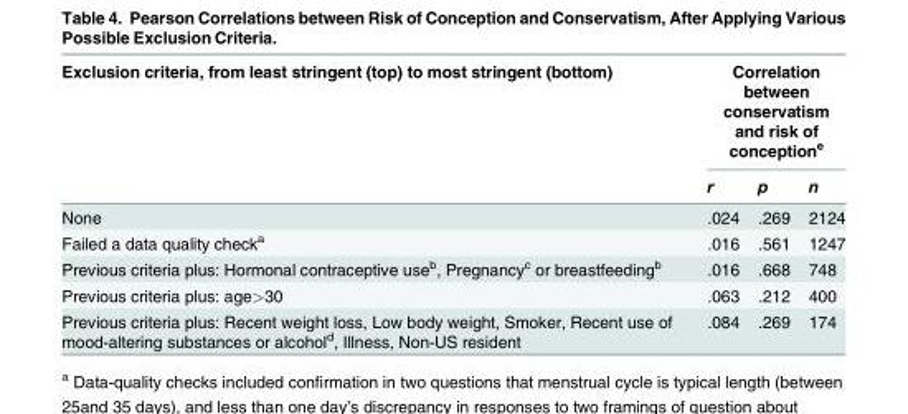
<table><thead><tr><td rowspan="2">Exclusion criteria, from least stringent (top) to most stringent (bottom)</td><td colspan="3">Correlation between conservatism and risk of conception<sup>e</sup></td></tr><tr><td>r</td><td>p</td><td>n</td></tr></thead><tbody><tr><td>None</td><td>.024</td><td>.269</td><td>2124</td></tr><tr><td>Failed a data quality check<sup>a</sup></td><td>.016</td><td>.561</td><td>1247</td></tr><tr><td>Previous criteria plus: Hormonal contraceptive use<sup>b</sup>, Pregnancy<sup>c</sup> or breastfeeding<sup>b</sup></td><td>.016</td><td>.668</td><td>748</td></tr><tr><td>Previous criteria plus: age&gt;30</td><td>.063</td><td>.212</td><td>400</td></tr><tr><td>Previous criteria plus: Recent weight loss, Low body weight, Smoker, Recent use of mood-altering substances or alcohol<sup>d</sup>, Illness, Non-US resident</td><td>.084</td><td>.269</td><td>174</td></tr></tbody></table>